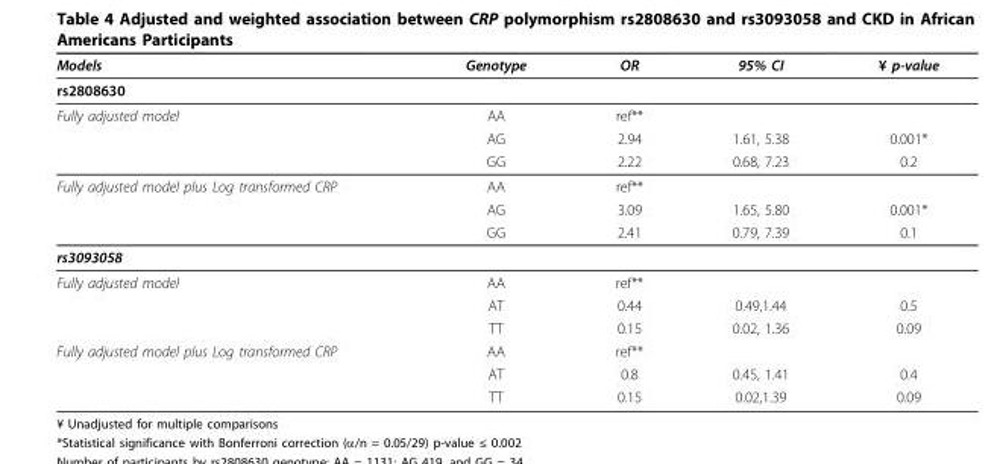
<table><thead><tr><td>Models</td><td>Genotype</td><td>OR</td><td>95% CI</td><td>¥ p-value</td></tr></thead><tbody><tr><td colspan="5">rs2808630</td></tr><tr><td rowspan="3">Fully adjusted model</td><td>AA</td><td>ref**</td><td></td><td></td></tr><tr><td>AG</td><td>2.94</td><td>1.61, 5.38</td><td>0.001*</td></tr><tr><td>GG</td><td>2.22</td><td>0.68, 7.23</td><td>0.2</td></tr><tr><td rowspan="3">Fully adjusted model plus Log transformed CRP</td><td>AA</td><td>ref**</td><td></td><td></td></tr><tr><td>AG</td><td>3.09</td><td>1.65, 5.80</td><td>0.001*</td></tr><tr><td>GG</td><td>2.41</td><td>0.79, 7.39</td><td>0.1</td></tr><tr><td colspan="5">rs3093058</td></tr><tr><td rowspan="3">Fully adjusted model</td><td>AA</td><td>ref**</td><td></td><td></td></tr><tr><td>AT</td><td>0.44</td><td>0.49,1.44</td><td>0.5</td></tr><tr><td>TT</td><td>0.15</td><td>0.02, 1.36</td><td>0.09</td></tr><tr><td rowspan="3">Fully adjusted model plus Log transformed CRP</td><td>AA</td><td>ref**</td><td></td><td></td></tr><tr><td>AT</td><td>0.8</td><td>0.45, 1.41</td><td>0.4</td></tr><tr><td>TT</td><td>0.15</td><td>0.02,1.39</td><td>0.09</td></tr></tbody></table>